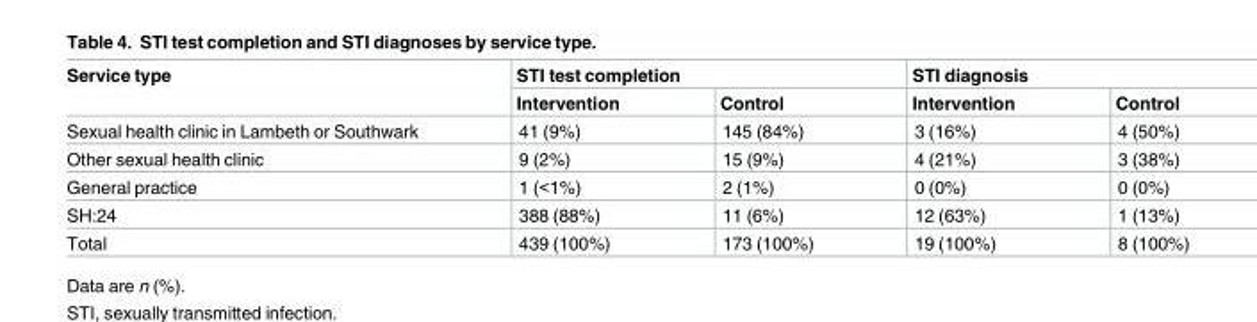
<table><thead><tr><td rowspan="2">Service type</td><td colspan="2">STI test completion</td><td colspan="2">STI diagnosis</td></tr><tr><td>Intervention</td><td>Control</td><td>Intervention</td><td>Control</td></tr></thead><tbody><tr><td>Sexual health clinic in Lambeth or Southwark</td><td>41 (9%)</td><td>145 (84%)</td><td>3 (16%)</td><td>4 (50%)</td></tr><tr><td>Other sexual health clinic</td><td>9 (2%)</td><td>15 (9%)</td><td>4 (21%)</td><td>3 (38%)</td></tr><tr><td>General practice</td><td>1 (&lt;1%)</td><td>2 (1%)</td><td>0 (0%)</td><td>0 (0%)</td></tr><tr><td>SH:24</td><td>388 (88%)</td><td>11 (6%)</td><td>12 (63%)</td><td>1 (13%)</td></tr><tr><td>Total</td><td>439 (100%)</td><td>173 (100%)</td><td>19 (100%)</td><td>8 (100%)</td></tr></tbody></table>